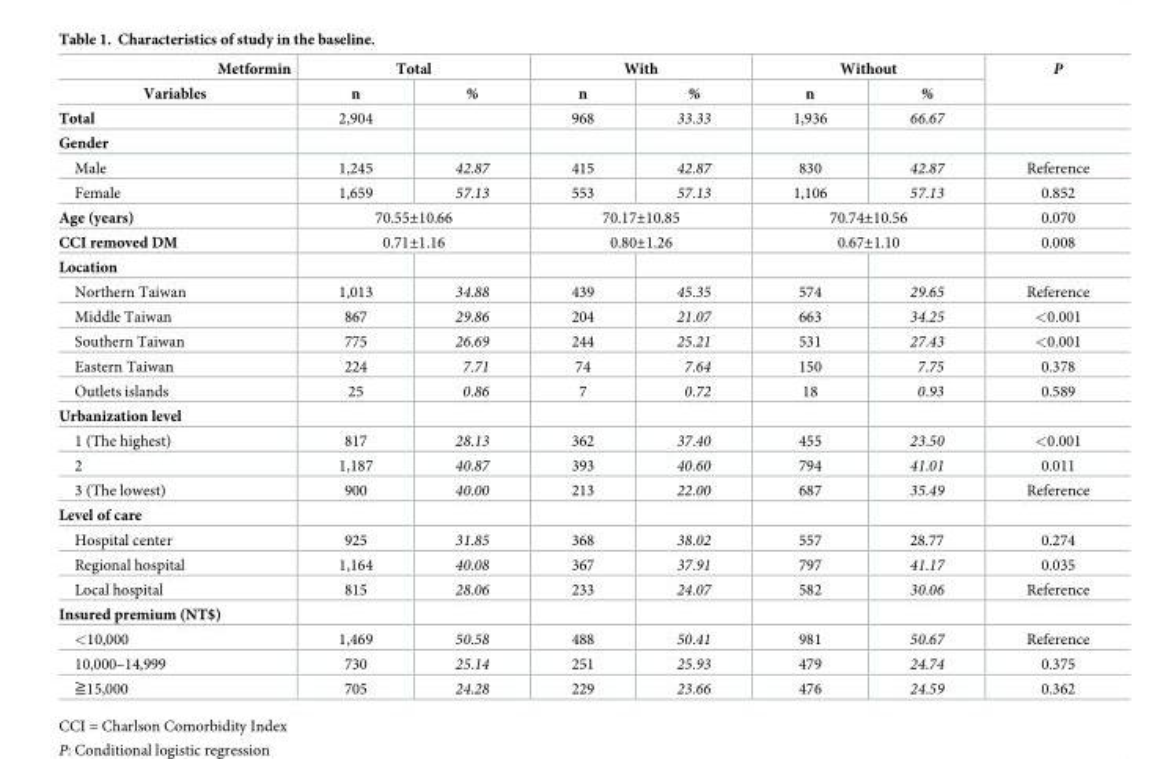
<table><thead><tr><td rowspan="2">Metformin Variables</td><td colspan="2">Total</td><td colspan="2">With</td><td colspan="2">Without</td><td rowspan="2">P</td></tr><tr><td>n</td><td>%</td><td>n</td><td>%</td><td>n</td><td>%</td></tr></thead><tbody><tr><td>Total</td><td>2,904</td><td></td><td>968</td><td>33.33</td><td>1,936</td><td>66.67</td><td></td></tr><tr><td colspan="8">Gender</td></tr><tr><td>Male</td><td>1,245</td><td>42.87</td><td>415</td><td>42.87</td><td>830</td><td>42.87</td><td>Reference</td></tr><tr><td>Female</td><td>1,659</td><td>57.13</td><td>553</td><td>57.13</td><td>1,106</td><td>57.13</td><td>0.852</td></tr><tr><td>Age (years)</td><td colspan="2">70.55±10.66</td><td colspan="2">70.17±10.85</td><td colspan="2">70.74±10.56</td><td>0.070</td></tr><tr><td>CCI removed DM</td><td colspan="2">0.71±1.16</td><td colspan="2">0.80±1.26</td><td colspan="2">0.67±1.10</td><td>0.008</td></tr><tr><td colspan="8">Location</td></tr><tr><td>Northern Taiwan</td><td>1,013</td><td>34.88</td><td>439</td><td>45.35</td><td>574</td><td>29.65</td><td>Reference</td></tr><tr><td>Middle Taiwan</td><td>867</td><td>29.86</td><td>204</td><td>21.07</td><td>663</td><td>34.25</td><td>&lt;0.001</td></tr><tr><td>Southern Taiwan</td><td>775</td><td>26.69</td><td>244</td><td>25.21</td><td>531</td><td>27.43</td><td>&lt;0.001</td></tr><tr><td>Eastern Taiwan</td><td>224</td><td>7.71</td><td>74</td><td>7.64</td><td>150</td><td>7.75</td><td>0.378</td></tr><tr><td>Outlets islands</td><td>25</td><td>0.86</td><td>7</td><td>0.72</td><td>18</td><td>0.93</td><td>0.589</td></tr><tr><td colspan="8">Urbanization level</td></tr><tr><td>1 (The highest)</td><td>817</td><td>28.13</td><td>362</td><td>37.40</td><td>455</td><td>23.50</td><td>&lt;0.001</td></tr><tr><td>2</td><td>1,187</td><td>40.87</td><td>393</td><td>40.60</td><td>794</td><td>41.01</td><td>0.011</td></tr><tr><td>3 (The lowest)</td><td>900</td><td>40.00</td><td>213</td><td>22.00</td><td>687</td><td>35.49</td><td>Reference</td></tr><tr><td colspan="8">Level of care</td></tr><tr><td>Hospital center</td><td>925</td><td>31.85</td><td>368</td><td>38.02</td><td>557</td><td>28.77</td><td>0.274</td></tr><tr><td>Regional hospital</td><td>1,164</td><td>40.08</td><td>367</td><td>37.91</td><td>797</td><td>41.17</td><td>0.035</td></tr><tr><td>Local hospital</td><td>815</td><td>28.06</td><td>233</td><td>24.07</td><td>582</td><td>30.06</td><td>Reference</td></tr><tr><td colspan="8">Insured premium (NT$)</td></tr><tr><td>&lt;10,000</td><td>1,469</td><td>50.58</td><td>488</td><td>50.41</td><td>981</td><td>50.67</td><td>Reference</td></tr><tr><td>10,000–14,999</td><td>730</td><td>25.14</td><td>251</td><td>25.93</td><td>479</td><td>24.74</td><td>0.375</td></tr><tr><td>≧15,000</td><td>705</td><td>24.28</td><td>229</td><td>23.66</td><td>476</td><td>24.59</td><td>0.362</td></tr></tbody></table>